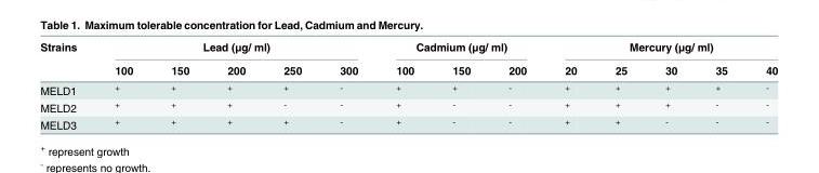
<table><thead><tr><td rowspan="2">Strains</td><td colspan="5">Lead (μg/ ml)</td><td colspan="3">Cadmium (μg/ ml)</td><td colspan="5">Mercury (μg/ ml)</td></tr><tr><td>100</td><td>150</td><td>200</td><td>250</td><td>300</td><td>100</td><td>150</td><td>200</td><td>20</td><td>25</td><td>30</td><td>35</td><td>40</td></tr></thead><tbody><tr><td>MELD1</td><td><sup>+</sup></td><td><sup>+</sup></td><td><sup>+</sup></td><td><sup>+</sup></td><td><sup>-</sup></td><td><sup>+</sup></td><td><sup>+</sup></td><td><sup>-</sup></td><td><sup>+</sup></td><td><sup>+</sup></td><td><sup>+</sup></td><td><sup>+</sup></td><td><sup>-</sup></td></tr><tr><td>MELD2</td><td><sup>+</sup></td><td><sup>+</sup></td><td><sup>+</sup></td><td><sup>-</sup></td><td><sup>-</sup></td><td><sup>+</sup></td><td><sup>-</sup></td><td><sup>-</sup></td><td><sup>+</sup></td><td><sup>+</sup></td><td><sup>+</sup></td><td><sup>-</sup></td><td><sup>-</sup></td></tr><tr><td>MELD3</td><td><sup>+</sup></td><td><sup>+</sup></td><td><sup>+</sup></td><td><sup>+</sup></td><td><sup>-</sup></td><td><sup>+</sup></td><td><sup>-</sup></td><td><sup>-</sup></td><td><sup>+</sup></td><td><sup>+</sup></td><td><sup>-</sup></td><td><sup>-</sup></td><td><sup>-</sup></td></tr></tbody></table>